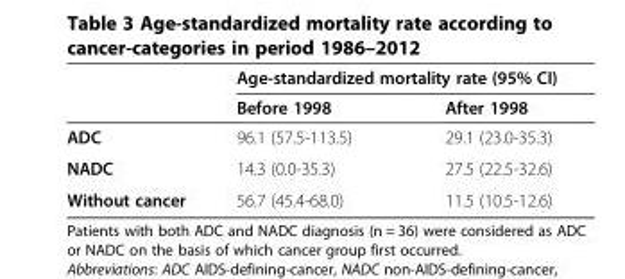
<table><thead><tr><td rowspan="2"></td><td colspan="2">Age-standardized mortality rate (95% CI)</td></tr><tr><td>Before 1998</td><td>After 1998</td></tr></thead><tbody><tr><td>ADC</td><td>96.1 (57.5-113.5)</td><td>29.1 (23.0-35.3)</td></tr><tr><td>NADC</td><td>14.3 (0.0-35.3)</td><td>27.5 (22.5-32.6)</td></tr><tr><td>Without cancer</td><td>56.7 (45.4-68.0)</td><td>11.5 (10.5-12.6)</td></tr></tbody></table>